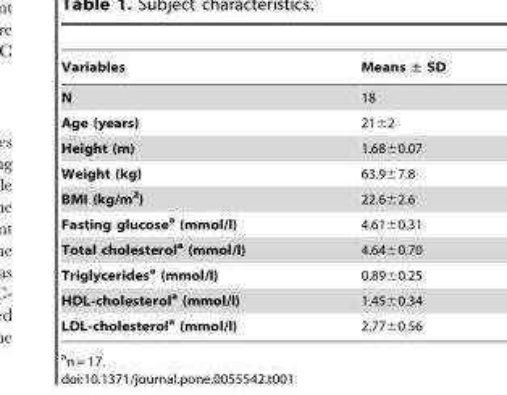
<table><thead><tr><td>Variables</td><td>Means ± SD</td></tr></thead><tbody><tr><td>N</td><td>18</td></tr><tr><td>Age (years)</td><td>21±2</td></tr><tr><td>Height (m)</td><td>1.68±0.07</td></tr><tr><td>Weight (kg)</td><td>63.9±7.8</td></tr><tr><td>BMI (kg/m<sup>2</sup>)</td><td>22.6±2.6</td></tr><tr><td>Fasting glucosea (mmol/l)</td><td>4.61±0.31</td></tr><tr><td>Total cholesterola (mmol/l)</td><td>4.64±0.70</td></tr><tr><td>Triglyceridesa (mmol/l)</td><td>0.89±0.25</td></tr><tr><td>HDL-cholesterola (mmol/l)</td><td>1.45±0.34</td></tr><tr><td>LDL-cholesterola (mmol/l)</td><td>2.77±0.56</td></tr></tbody></table>